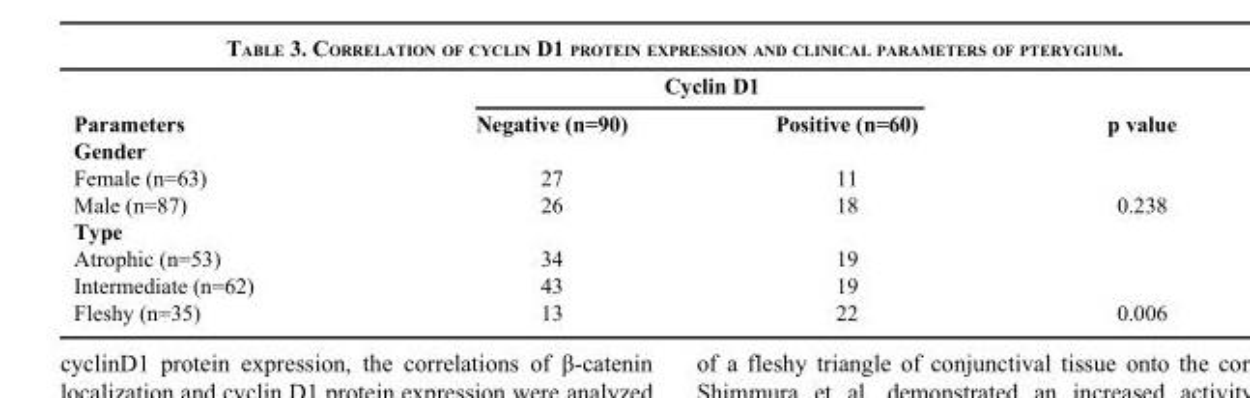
<table><thead><tr><td rowspan="2">Parameters</td><td colspan="2">Cyclin D1</td><td rowspan="2">p value</td></tr><tr><td>Negative (n=90)</td><td>Positive (n=60)</td></tr></thead><tbody><tr><td colspan="4">Gender</td></tr><tr><td>Female (n=63)</td><td>27</td><td>11</td><td></td></tr><tr><td>Male (n=87)</td><td>26</td><td>18</td><td>0.238</td></tr><tr><td colspan="4">Type</td></tr><tr><td>Atrophic (n=53)</td><td>34</td><td>19</td><td></td></tr><tr><td>Intermediate (n=62)</td><td>43</td><td>19</td><td></td></tr><tr><td>Fleshy (n=35)</td><td>13</td><td>22</td><td>0.006</td></tr></tbody></table>